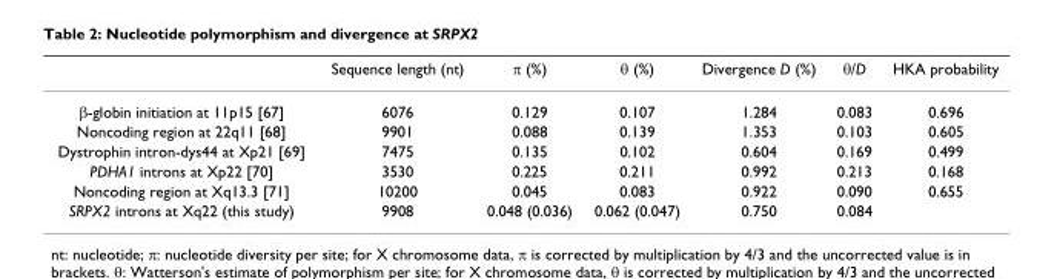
<table><thead><tr><td></td><td>Sequence length (nt)</td><td>π (%)</td><td>θ (%)</td><td>Divergence D (%)</td><td>θ/D</td><td>HKA probability</td></tr></thead><tbody><tr><td>β-globin initiation at 11p15 [67]</td><td>6076</td><td>0.129</td><td>0.107</td><td>1.284</td><td>0.083</td><td>0.696</td></tr><tr><td>Noncoding region at 22q11 [68]</td><td>9901</td><td>0.088</td><td>0.139</td><td>1.353</td><td>0.103</td><td>0.605</td></tr><tr><td>Dystrophin intron-dys44 at Xp21 [69]</td><td>7475</td><td>0.135</td><td>0.102</td><td>0.604</td><td>0.169</td><td>0.499</td></tr><tr><td>PDHA1 introns at Xp22 [70]</td><td>3530</td><td>0.225</td><td>0.211</td><td>0.992</td><td>0.213</td><td>0.168</td></tr><tr><td>Noncoding region at Xq13.3 [71]</td><td>10200</td><td>0.045</td><td>0.083</td><td>0.922</td><td>0.090</td><td>0.655</td></tr><tr><td>SRPX2 introns at Xq22 (this study)</td><td>9908</td><td>0.048 (0.036)</td><td>0.062 (0.047)</td><td>0.750</td><td>0.084</td><td></td></tr></tbody></table>